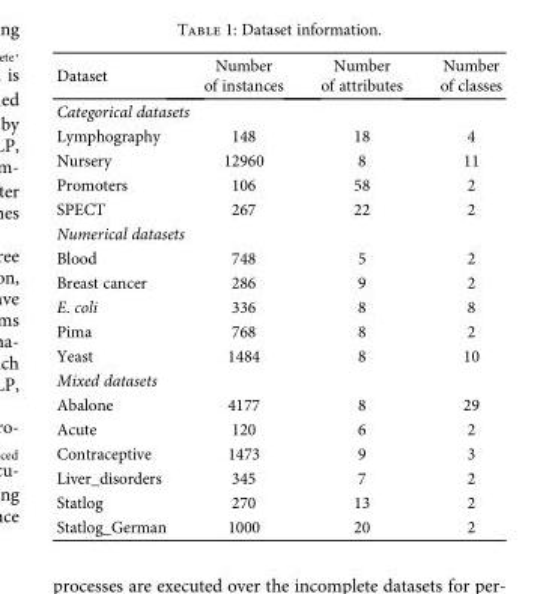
<table><thead><tr><td>Dataset</td><td>Number of instances</td><td>Number of attributes</td><td>Number of classes</td></tr></thead><tbody><tr><td colspan="4">Categorical datasets</td></tr><tr><td>Lymphography</td><td>148</td><td>18</td><td>4</td></tr><tr><td>Nursery</td><td>12960</td><td>8</td><td>11</td></tr><tr><td>Promoters</td><td>106</td><td>58</td><td>2</td></tr><tr><td>SPECT</td><td>267</td><td>22</td><td>2</td></tr><tr><td colspan="4">Numerical datasets</td></tr><tr><td>Blood</td><td>748</td><td>5</td><td>2</td></tr><tr><td>Breast cancer</td><td>286</td><td>9</td><td>2</td></tr><tr><td>E. coli</td><td>336</td><td>8</td><td>8</td></tr><tr><td>Pima</td><td>768</td><td>8</td><td>2</td></tr><tr><td>Yeast</td><td>1484</td><td>8</td><td>10</td></tr><tr><td colspan="4">Mixed datasets</td></tr><tr><td>Abalone</td><td>4177</td><td>8</td><td>29</td></tr><tr><td>Acute</td><td>120</td><td>6</td><td>2</td></tr><tr><td>Contraceptive</td><td>1473</td><td>9</td><td>3</td></tr><tr><td>Liver_disorders</td><td>345</td><td>7</td><td>2</td></tr><tr><td>Statlog</td><td>270</td><td>13</td><td>2</td></tr><tr><td>Statlog_German</td><td>1000</td><td>20</td><td>2</td></tr></tbody></table>